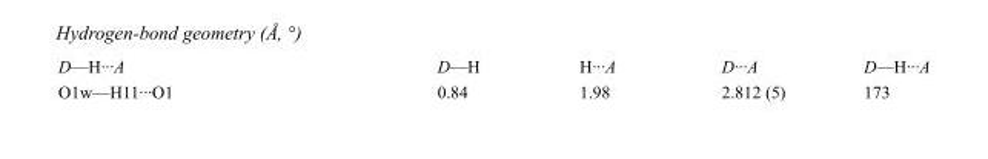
<table><tbody><tr><td>D—H···A</td><td>D—H</td><td>H···A</td><td>D···A</td><td>D—H···A</td></tr><tr><td>O1w—H11···O1</td><td>0.84</td><td>1.98</td><td>2.812 (5)</td><td>173</td></tr></tbody></table>